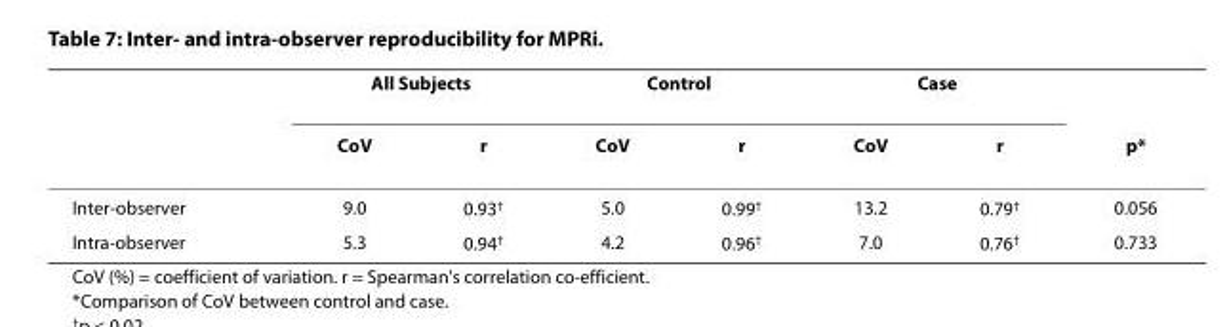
<table><thead><tr><td rowspan="2"></td><td colspan="2">All Subjects</td><td colspan="2">Control</td><td colspan="2">Case</td><td rowspan="2">p*</td></tr><tr><td>CoV</td><td>r</td><td>CoV</td><td>r</td><td>CoV</td><td>r</td></tr></thead><tbody><tr><td>Inter-observer</td><td>9.0</td><td>0.93<sup>†</sup></td><td>5.0</td><td>0.99<sup>†</sup></td><td>13.2</td><td>0.79<sup>†</sup></td><td>0.056</td></tr><tr><td>Intra-observer</td><td>5.3</td><td>0.94<sup>†</sup></td><td>4.2</td><td>0.96<sup>†</sup></td><td>7.0</td><td>0.76<sup>†</sup></td><td>0.733</td></tr></tbody></table>